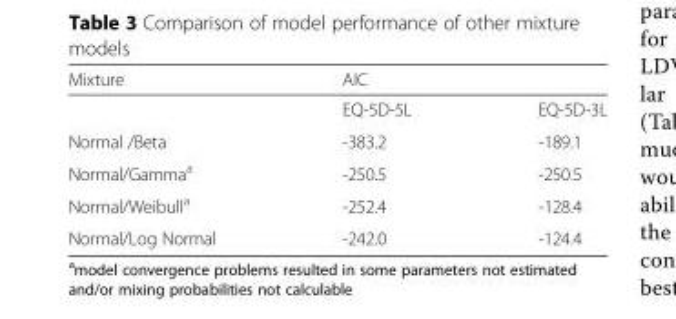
<table><thead><tr><td rowspan="2">Mixture</td><td colspan="2">AIC</td></tr><tr><td>EQ-5D-5L</td><td>EQ-5D-3L</td></tr></thead><tbody><tr><td>Normal /Beta</td><td>-383.2</td><td>-189.1</td></tr><tr><td>Normal/Gamma<sup>a</sup></td><td>-250.5</td><td>-250.5</td></tr><tr><td>Normal/Weibull<sup>a</sup></td><td>-252.4</td><td>-128.4</td></tr><tr><td>Normal/Log Normal</td><td>-242.0</td><td>-124.4</td></tr></tbody></table>